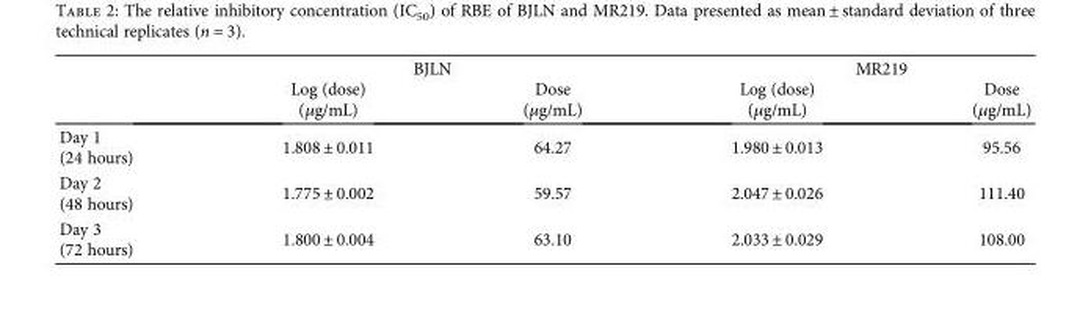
<table><thead><tr><td rowspan="2"></td><td colspan="2">BJLN</td><td colspan="2">MR219</td></tr><tr><td>Log (dose) (μg/mL)</td><td>Dose (μg/mL)</td><td>Log (dose) (μg/mL)</td><td>Dose (μg/mL)</td></tr></thead><tbody><tr><td>Day 1 (24 hours)</td><td>1.808 ± 0.011</td><td>64.27</td><td>1.980 ± 0.013</td><td>95.56</td></tr><tr><td>Day 2 (48 hours)</td><td>1.775 ± 0.002</td><td>59.57</td><td>2.047 ± 0.026</td><td>111.40</td></tr><tr><td>Day 3 (72 hours)</td><td>1.800 ± 0.004</td><td>63.10</td><td>2.033 ± 0.029</td><td>108.00</td></tr></tbody></table>